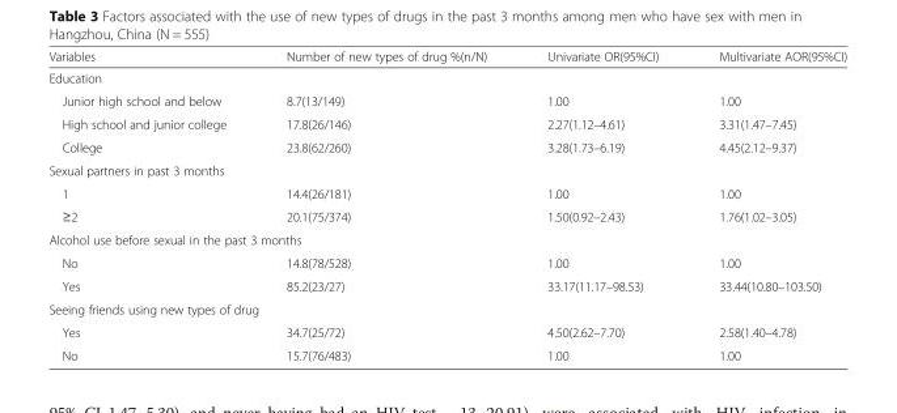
<table><thead><tr><td>Variables</td><td>Number of new types of drug %(n/N)</td><td>Univariate OR(95%CI)</td><td>Multivariate AOR(95%CI)</td></tr></thead><tbody><tr><td colspan="4">Education</td></tr><tr><td>Junior high school and below</td><td>8.7(13/149)</td><td>1.00</td><td>1.00</td></tr><tr><td>High school and junior college</td><td>17.8(26/146)</td><td>2.27(1.12–4.61)</td><td>3.31(1.47–7.45)</td></tr><tr><td>College</td><td>23.8(62/260)</td><td>3.28(1.73–6.19)</td><td>4.45(2.12–9.37)</td></tr><tr><td colspan="4">Sexual partners in past 3 months</td></tr><tr><td>1</td><td>14.4(26/181)</td><td>1.00</td><td>1.00</td></tr><tr><td>≥2</td><td>20.1(75/374)</td><td>1.50(0.92–2.43)</td><td>1.76(1.02–3.05)</td></tr><tr><td colspan="4">Alcohol use before sexual in the past 3 months</td></tr><tr><td>No</td><td>14.8(78/528)</td><td>1.00</td><td>1.00</td></tr><tr><td>Yes</td><td>85.2(23/27)</td><td>33.17(11.17–98.53)</td><td>33.44(10.80–103.50)</td></tr><tr><td colspan="4">Seeing friends using new types of drug</td></tr><tr><td>Yes</td><td>34.7(25/72)</td><td>4.50(2.62–7.70)</td><td>2.58(1.40–4.78)</td></tr><tr><td>No</td><td>15.7(76/483)</td><td>1.00</td><td>1.00</td></tr></tbody></table>